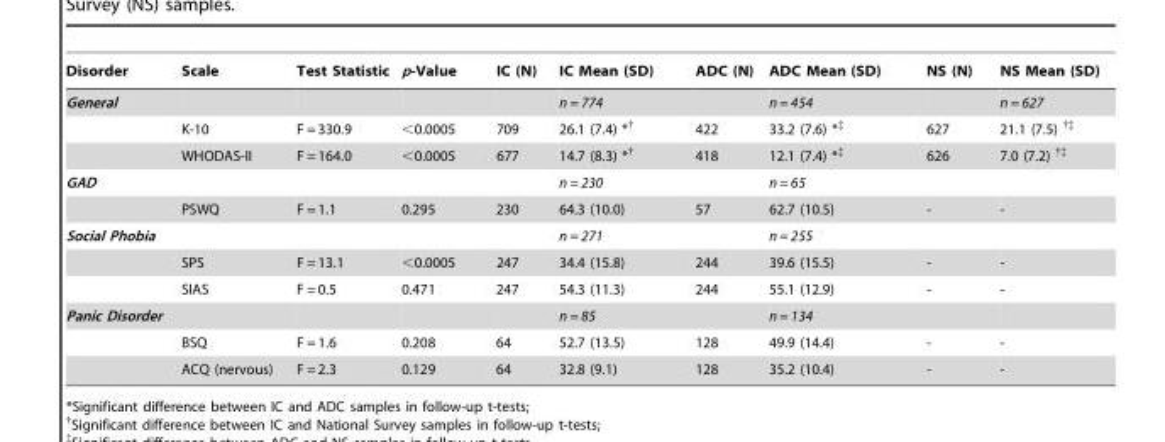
<table><thead><tr><td>Disorder</td><td>Scale</td><td>Test Statistic</td><td>p-Value</td><td>IC (N)</td><td>IC Mean (SD)</td><td>ADC (N)</td><td>ADC Mean (SD)</td><td>NS (N)</td><td>NS Mean (SD)</td></tr></thead><tbody><tr><td rowspan="3">General</td><td></td><td></td><td></td><td></td><td>n = 774</td><td></td><td>n = 454</td><td></td><td>n = 627</td></tr><tr><td>K-10</td><td>F = 330.9</td><td>&lt;0.0005</td><td>709</td><td>26.1 (7.4) *†</td><td>422</td><td>33.2 (7.6) *‡</td><td>627</td><td>21.1 (7.5) †‡</td></tr><tr><td>WHODAS-II</td><td>F = 164.0</td><td>&lt;0.0005</td><td>677</td><td>14.7 (8.3) *†</td><td>418</td><td>12.1 (7.4) *‡</td><td>626</td><td>7.0 (7.2) †‡</td></tr><tr><td rowspan="2">GAD</td><td></td><td></td><td></td><td></td><td>n = 230</td><td></td><td>n = 65</td><td></td><td></td></tr><tr><td>PSWQ</td><td>F = 1.1</td><td>0.295</td><td>230</td><td>64.3 (10.0)</td><td>57</td><td>62.7 (10.5)</td><td>-</td><td>-</td></tr><tr><td rowspan="3">Social Phobia</td><td></td><td></td><td></td><td></td><td>n = 271</td><td></td><td>n = 255</td><td></td><td></td></tr><tr><td>SPS</td><td>F = 13.1</td><td>&lt;0.0005</td><td>247</td><td>34.4 (15.8)</td><td>244</td><td>39.6 (15.5)</td><td>-</td><td>-</td></tr><tr><td>SIAS</td><td>F = 0.5</td><td>0.471</td><td>247</td><td>54.3 (11.3)</td><td>244</td><td>55.1 (12.9)</td><td>-</td><td>-</td></tr><tr><td rowspan="3">Panic Disorder</td><td></td><td></td><td></td><td></td><td>n = 85</td><td></td><td>n = 134</td><td></td><td></td></tr><tr><td>BSQ</td><td>F = 1.6</td><td>0.208</td><td>64</td><td>52.7 (13.5)</td><td>128</td><td>49.9 (14.4)</td><td>-</td><td>-</td></tr><tr><td>ACQ (nervous)</td><td>F = 2.3</td><td>0.129</td><td>64</td><td>32.8 (9.1)</td><td>128</td><td>35.2 (10.4)</td><td>-</td><td>-</td></tr></tbody></table>